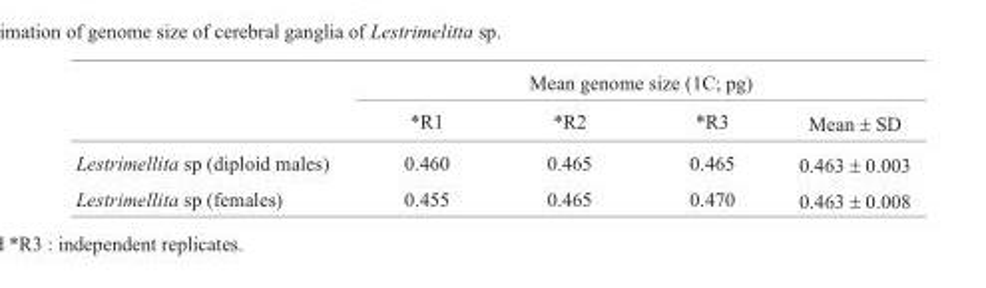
<table><thead><tr><td rowspan="2"></td><td colspan="4">Mean genome size (1C; pg)</td></tr><tr><td>*R1</td><td>*R2</td><td>*R3</td><td>Mean ± SD</td></tr></thead><tbody><tr><td>Lestrimellita sp (diploid males)</td><td>0.460</td><td>0.465</td><td>0.465</td><td>0.463 ± 0.003</td></tr><tr><td>Lestrimellita sp (females)</td><td>0.455</td><td>0.465</td><td>0.470</td><td>0.463 ± 0.008</td></tr></tbody></table>